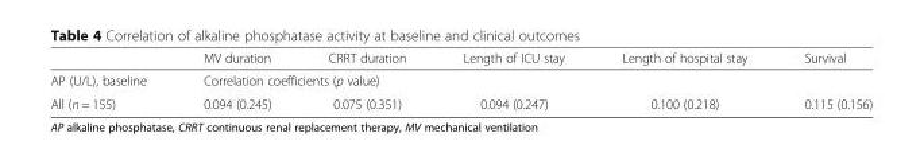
<table><thead><tr><td></td><td>MV duration</td><td>CRRT duration</td><td>Length of ICU stay</td><td>Length of hospital stay</td><td>Survival</td></tr></thead><tbody><tr><td>AP (U/L), baseline</td><td colspan="5">Correlation coefficients (p value)</td></tr><tr><td>All (n = 155)</td><td>0.094 (0.245)</td><td>0.075 (0.351)</td><td>0.094 (0.247)</td><td>0.100 (0.218)</td><td>0.115 (0.156)</td></tr></tbody></table>